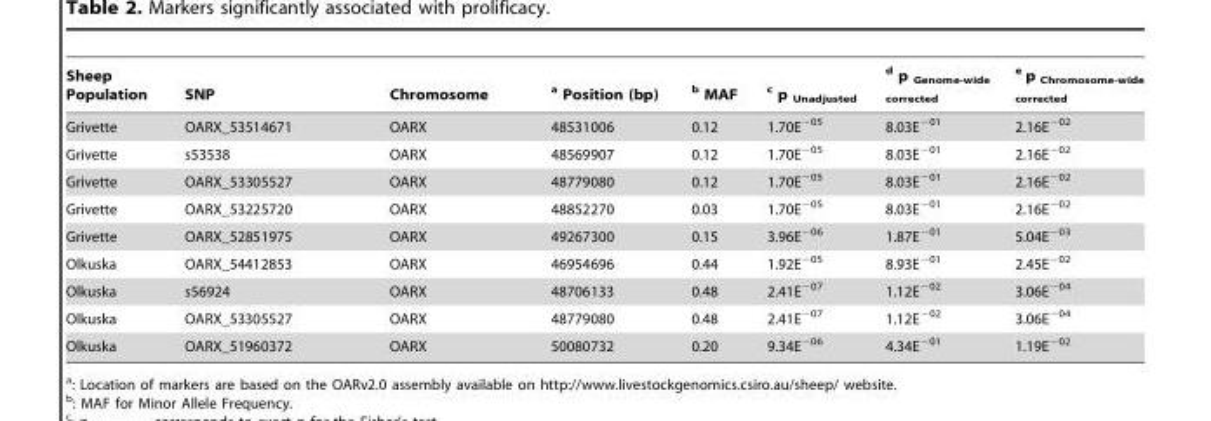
<table><thead><tr><td>Sheep Population</td><td>SNP</td><td>Chromosome</td><td>a Position (bp)</td><td>b MAF</td><td>c p <sub>Unadjusted</sub></td><td>d p <sub>Genome-wide corrected</sub></td><td>e p <sub>Chromosome-wide corrected</sub></td></tr></thead><tbody><tr><td>Grivette</td><td>OARX_53514671</td><td>OARX</td><td>48531006</td><td>0.12</td><td>1.70E<sup>−05</sup></td><td>8.03E<sup>−01</sup></td><td>2.16E<sup>−02</sup></td></tr><tr><td>Grivette</td><td>s53538</td><td>OARX</td><td>48569907</td><td>0.12</td><td>1.70E<sup>−05</sup></td><td>8.03E<sup>−01</sup></td><td>2.16E<sup>−02</sup></td></tr><tr><td>Grivette</td><td>OARX_53305527</td><td>OARX</td><td>48779080</td><td>0.12</td><td>1.70E<sup>−05</sup></td><td>8.03E<sup>−01</sup></td><td>2.16E<sup>−02</sup></td></tr><tr><td>Grivette</td><td>OARX_53225720</td><td>OARX</td><td>48852270</td><td>0.03</td><td>1.70E<sup>−05</sup></td><td>8.03E<sup>−01</sup></td><td>2.16E<sup>−02</sup></td></tr><tr><td>Grivette</td><td>OARX_52851975</td><td>OARX</td><td>49267300</td><td>0.15</td><td>3.96E<sup>−06</sup></td><td>1.87E<sup>−01</sup></td><td>5.04E<sup>−03</sup></td></tr><tr><td>Olkuska</td><td>OARX_54412853</td><td>OARX</td><td>46954696</td><td>0.44</td><td>1.92E<sup>−05</sup></td><td>8.93E<sup>−01</sup></td><td>2.45E<sup>−02</sup></td></tr><tr><td>Olkuska</td><td>s56924</td><td>OARX</td><td>48706133</td><td>0.48</td><td>2.41E<sup>−07</sup></td><td>1.12E<sup>−02</sup></td><td>3.06E<sup>−04</sup></td></tr><tr><td>Olkuska</td><td>OARX_53305527</td><td>OARX</td><td>48779080</td><td>0.48</td><td>2.41E<sup>−07</sup></td><td>1.12E<sup>−02</sup></td><td>3.06E<sup>−04</sup></td></tr><tr><td>Olkuska</td><td>OARX_51960372</td><td>OARX</td><td>50080732</td><td>0.20</td><td>9.34E<sup>−06</sup></td><td>4.34E<sup>−01</sup></td><td>1.19E<sup>−02</sup></td></tr></tbody></table>